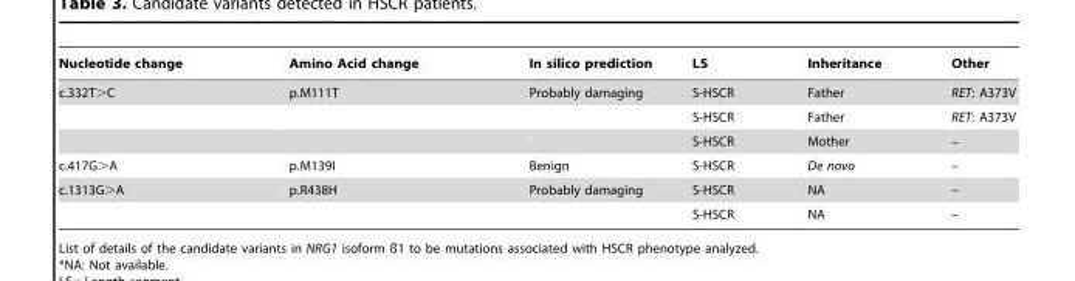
<table><thead><tr><td>Nucleotide change</td><td>Amino Acid change</td><td>In silico prediction</td><td>LS</td><td>Inheritance</td><td>Other</td></tr></thead><tbody><tr><td rowspan="3">c.332T&gt;C</td><td>p.M111T</td><td>Probably damaging</td><td>S-HSCR</td><td>Father</td><td>RET: A373V</td></tr><tr><td></td><td></td><td>S-HSCR</td><td>Father</td><td>RET: A373V</td></tr><tr><td></td><td></td><td>S-HSCR</td><td>Mother</td><td>–</td></tr><tr><td>c.417G&gt;A</td><td>p.M139I</td><td>Benign</td><td>S-HSCR</td><td>De novo</td><td>–</td></tr><tr><td rowspan="2">c.1313G&gt;A</td><td>p.R438H</td><td>Probably damaging</td><td>S-HSCR</td><td>NA</td><td>–</td></tr><tr><td></td><td></td><td>S-HSCR</td><td>NA</td><td>–</td></tr></tbody></table>